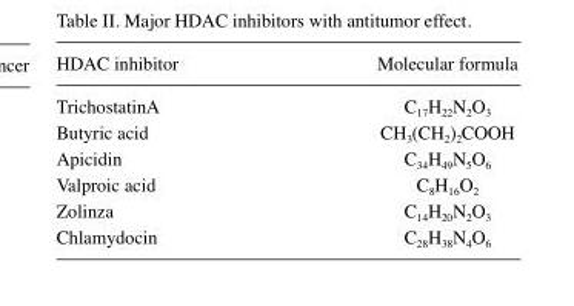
<table><thead><tr><td>HDAC inhibitor</td><td>Molecular formula</td></tr></thead><tbody><tr><td>TrichostatinA</td><td>C<sub>17</sub>H<sub>22</sub>N<sub>2</sub>O<sub>3</sub></td></tr><tr><td>Butyric acid</td><td>CH<sub>3</sub>(CH<sub>2</sub>)<sub>2</sub>COOH</td></tr><tr><td>Apicidin</td><td>C<sub>34</sub>H<sub>49</sub>N<sub>5</sub>O<sub>6</sub></td></tr><tr><td>Valproic acid</td><td>C<sub>8</sub>H<sub>16</sub>O<sub>2</sub></td></tr><tr><td>Zolinza</td><td>C<sub>14</sub>H<sub>20</sub>N<sub>2</sub>O<sub>3</sub></td></tr><tr><td>Chlamydocin</td><td>C<sub>28</sub>H<sub>38</sub>N<sub>4</sub>O<sub>6</sub></td></tr></tbody></table>